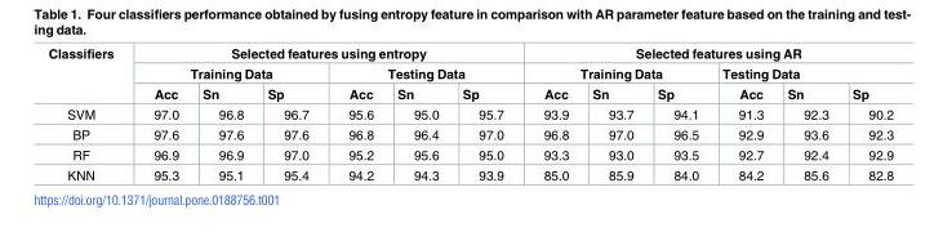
<table><thead><tr><td rowspan="3">Classifiers</td><td colspan="6">Selected features using entropy</td><td colspan="6">Selected features using AR</td></tr><tr><td colspan="3">Training Data</td><td colspan="3">Testing Data</td><td colspan="3">Training Data</td><td colspan="3">Testing Data</td></tr><tr><td>Acc</td><td>Sn</td><td>Sp</td><td>Acc</td><td>Sn</td><td>Sp</td><td>Acc</td><td>Sn</td><td>Sp</td><td>Acc</td><td>Sn</td><td>Sp</td></tr></thead><tbody><tr><td>SVM</td><td>97.0</td><td>96.8</td><td>96.7</td><td>95.6</td><td>95.0</td><td>95.7</td><td>93.9</td><td>93.7</td><td>94.1</td><td>91.3</td><td>92.3</td><td>90.2</td></tr><tr><td>BP</td><td>97.6</td><td>97.6</td><td>97.6</td><td>96.8</td><td>96.4</td><td>97.0</td><td>96.8</td><td>97.0</td><td>96.5</td><td>92.9</td><td>93.6</td><td>92.3</td></tr><tr><td>RF</td><td>96.9</td><td>96.9</td><td>97.0</td><td>95.2</td><td>95.6</td><td>95.0</td><td>93.3</td><td>93.0</td><td>93.5</td><td>92.7</td><td>92.4</td><td>92.9</td></tr><tr><td>KNN</td><td>95.3</td><td>95.1</td><td>95.4</td><td>94.2</td><td>94.3</td><td>93.9</td><td>85.0</td><td>85.9</td><td>84.0</td><td>84.2</td><td>85.6</td><td>82.8</td></tr></tbody></table>